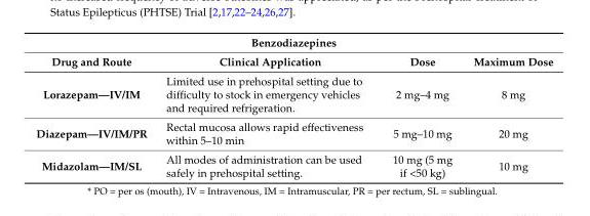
<table><thead><tr><td colspan="4">Benzodiazepines</td></tr><tr><td>Drug and Route</td><td>Clinical Application</td><td>Dose</td><td>Maximum Dose</td></tr></thead><tbody><tr><td>Lorazepam—IV/IM</td><td>Limited use in prehospital setting due to difficulty to stock in emergency vehicles and required refrigeration.</td><td>2 mg–4 mg</td><td>8 mg</td></tr><tr><td>Diazepam—IV/IM/PR</td><td>Rectal mucosa allows rapid effectiveness within 5–10 min</td><td>5 mg–10 mg</td><td>20 mg</td></tr><tr><td>Midazolam—IM/SL</td><td>All modes of administration can be used safely in prehospital setting.</td><td>10 mg (5 mg if &lt;50 kg)</td><td>10 mg</td></tr></tbody></table>